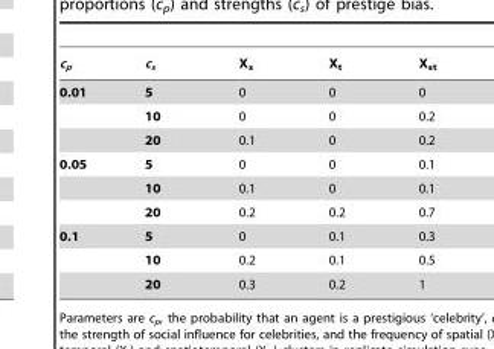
<table><thead><tr><td>c<sub>p</sub></td><td>c<sub>s</sub></td><td>X<sub>s</sub></td><td>X<sub>t</sub></td><td>X<sub>st</sub></td></tr></thead><tbody><tr><td rowspan="3">0.01</td><td>5</td><td>0</td><td>0</td><td>0</td></tr><tr><td>10</td><td>0</td><td>0</td><td>0.2</td></tr><tr><td>20</td><td>0.1</td><td>0</td><td>0.2</td></tr><tr><td rowspan="3">0.05</td><td>5</td><td>0</td><td>0</td><td>0.1</td></tr><tr><td>10</td><td>0.1</td><td>0</td><td>0.1</td></tr><tr><td>20</td><td>0.2</td><td>0.2</td><td>0.7</td></tr><tr><td rowspan="3">0.1</td><td>5</td><td>0</td><td>0.1</td><td>0.3</td></tr><tr><td>10</td><td>0.2</td><td>0.1</td><td>0.5</td></tr><tr><td>20</td><td>0.3</td><td>0.2</td><td>1</td></tr></tbody></table>